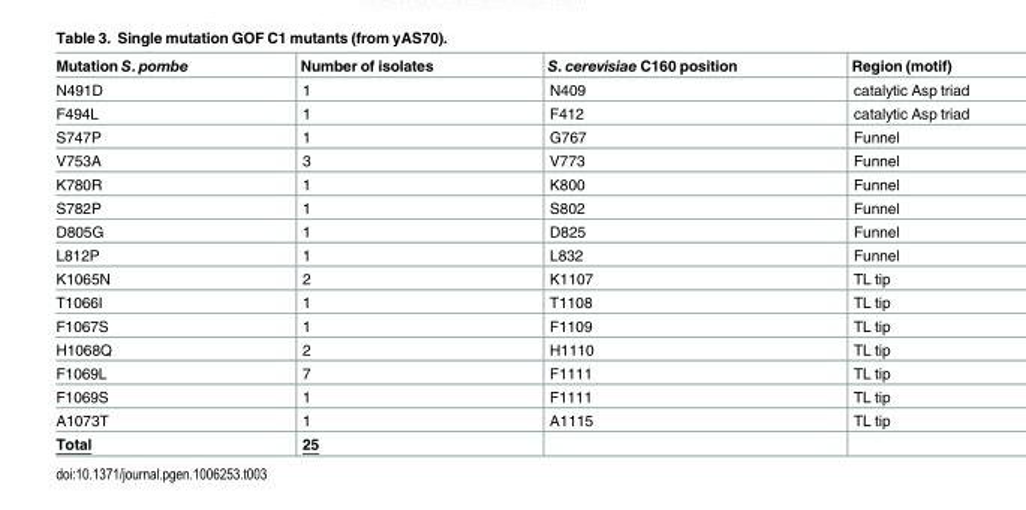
<table><thead><tr><td>Mutation S. pombe</td><td>Number of isolates</td><td>S. cerevisiae C160 position</td><td>Region (motif)</td></tr></thead><tbody><tr><td>N491D</td><td>1</td><td>N409</td><td>catalytic Asp triad</td></tr><tr><td>F494L</td><td>1</td><td>F412</td><td>catalytic Asp triad</td></tr><tr><td>S747P</td><td>1</td><td>G767</td><td>Funnel</td></tr><tr><td>V753A</td><td>3</td><td>V773</td><td>Funnel</td></tr><tr><td>K780R</td><td>1</td><td>K800</td><td>Funnel</td></tr><tr><td>S782P</td><td>1</td><td>S802</td><td>Funnel</td></tr><tr><td>D805G</td><td>1</td><td>D825</td><td>Funnel</td></tr><tr><td>L812P</td><td>1</td><td>L832</td><td>Funnel</td></tr><tr><td>K1065N</td><td>2</td><td>K1107</td><td>TL tip</td></tr><tr><td>T1066I</td><td>1</td><td>T1108</td><td>TL tip</td></tr><tr><td>F1067S</td><td>1</td><td>F1109</td><td>TL tip</td></tr><tr><td>H1068Q</td><td>2</td><td>H1110</td><td>TL tip</td></tr><tr><td>F1069L</td><td>7</td><td>F1111</td><td>TL tip</td></tr><tr><td>F1069S</td><td>1</td><td>F1111</td><td>TL tip</td></tr><tr><td>A1073T</td><td>1</td><td>A1115</td><td>TL tip</td></tr><tr><td>Total</td><td>25</td><td></td><td></td></tr></tbody></table>